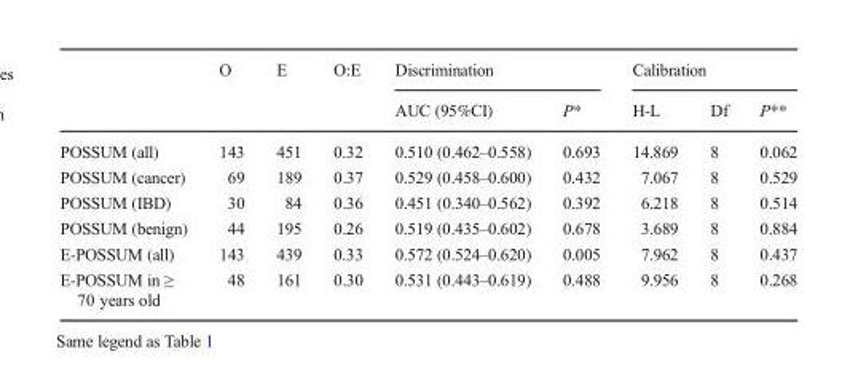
<table><thead><tr><td rowspan="2"></td><td rowspan="2">O</td><td rowspan="2">E</td><td rowspan="2">O:E</td><td colspan="2">Discrimination</td><td colspan="3">Calibration</td></tr><tr><td>AUC (95%CI)</td><td>P*</td><td>H-L</td><td>Df</td><td>P**</td></tr></thead><tbody><tr><td>POSSUM (all)</td><td>143</td><td>451</td><td>0.32</td><td>0.510 (0.462–0.558)</td><td>0.693</td><td>14.869</td><td>8</td><td>0.062</td></tr><tr><td>POSSUM (cancer)</td><td>69</td><td>189</td><td>0.37</td><td>0.529 (0.458–0.600)</td><td>0.432</td><td>7.067</td><td>8</td><td>0.529</td></tr><tr><td>POSSUM (IBD)</td><td>30</td><td>84</td><td>0.36</td><td>0.451 (0.340–0.562)</td><td>0.392</td><td>6.218</td><td>8</td><td>0.514</td></tr><tr><td>POSSUM (benign)</td><td>44</td><td>195</td><td>0.26</td><td>0.519 (0.435–0.602)</td><td>0.678</td><td>3.689</td><td>8</td><td>0.884</td></tr><tr><td>E-POSSUM (all)</td><td>143</td><td>439</td><td>0.33</td><td>0.572 (0.524–0.620)</td><td>0.005</td><td>7.962</td><td>8</td><td>0.437</td></tr><tr><td>E-POSSUM in ≥ 70 years old</td><td>48</td><td>161</td><td>0.30</td><td>0.531 (0.443–0.619)</td><td>0.488</td><td>9.956</td><td>8</td><td>0.268</td></tr></tbody></table>